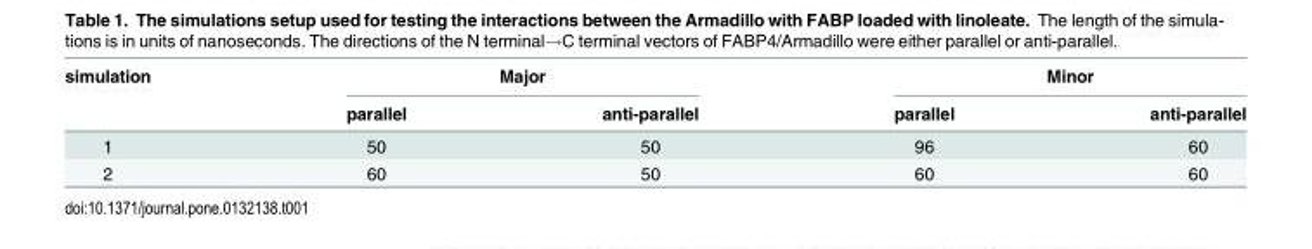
<table><thead><tr><td rowspan="2">simulation</td><td colspan="2">Major</td><td colspan="2">Minor</td></tr><tr><td>parallel</td><td>anti-parallel</td><td>parallel</td><td>anti-parallel</td></tr></thead><tbody><tr><td>1</td><td>50</td><td>50</td><td>96</td><td>60</td></tr><tr><td>2</td><td>60</td><td>50</td><td>60</td><td>60</td></tr></tbody></table>